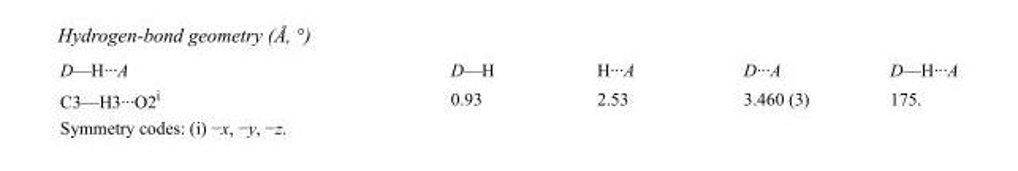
<table><tbody><tr><td>D—H···A</td><td>D—H</td><td>H···A</td><td>D···A</td><td>D—H···A</td></tr><tr><td>C3—H3···O2<sup>i</sup></td><td>0.93</td><td>2.53</td><td>3.460 (3)</td><td>175.</td></tr></tbody></table>